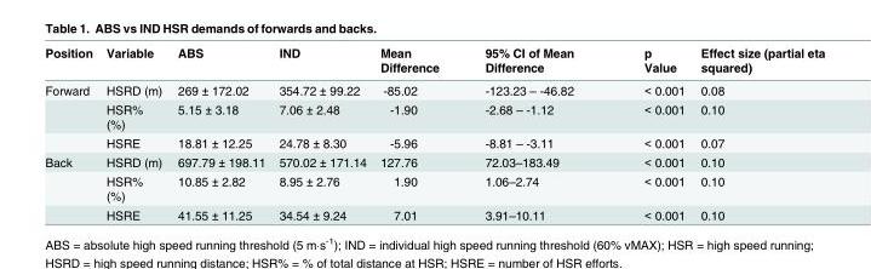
<table><thead><tr><td>Position</td><td>Variable</td><td>ABS</td><td>IND</td><td>Mean Difference</td><td>95% CI of Mean Difference</td><td>p Value</td><td>Effect size (partial eta squared)</td></tr></thead><tbody><tr><td rowspan="3">Forward</td><td>HSRD (m)</td><td>269 ± 172.02</td><td>354.72 ± 99.22</td><td>-85.02</td><td>-123.23 – -46.82</td><td>&lt; 0.001</td><td>0.08</td></tr><tr><td>HSR% (%)</td><td>5.15 ± 3.18</td><td>7.06 ± 2.48</td><td>-1.90</td><td>-2.68 – -1.12</td><td>&lt; 0.001</td><td>0.10</td></tr><tr><td>HSRE</td><td>18.81 ± 12.25</td><td>24.78 ± 8.30</td><td>-5.96</td><td>-8.81 – -3.11</td><td>&lt; 0.001</td><td>0.07</td></tr><tr><td rowspan="3">Back</td><td>HSRD (m)</td><td>697.79 ± 198.11</td><td>570.02 ± 171.14</td><td>127.76</td><td>72.03–183.49</td><td>&lt; 0.001</td><td>0.10</td></tr><tr><td>HSR% (%)</td><td>10.85 ± 2.82</td><td>8.95 ± 2.76</td><td>1.90</td><td>1.06–2.74</td><td>&lt; 0.001</td><td>0.10</td></tr><tr><td>HSRE</td><td>41.55 ± 11.25</td><td>34.54 ± 9.24</td><td>7.01</td><td>3.91–10.11</td><td>&lt; 0.001</td><td>0.10</td></tr></tbody></table>